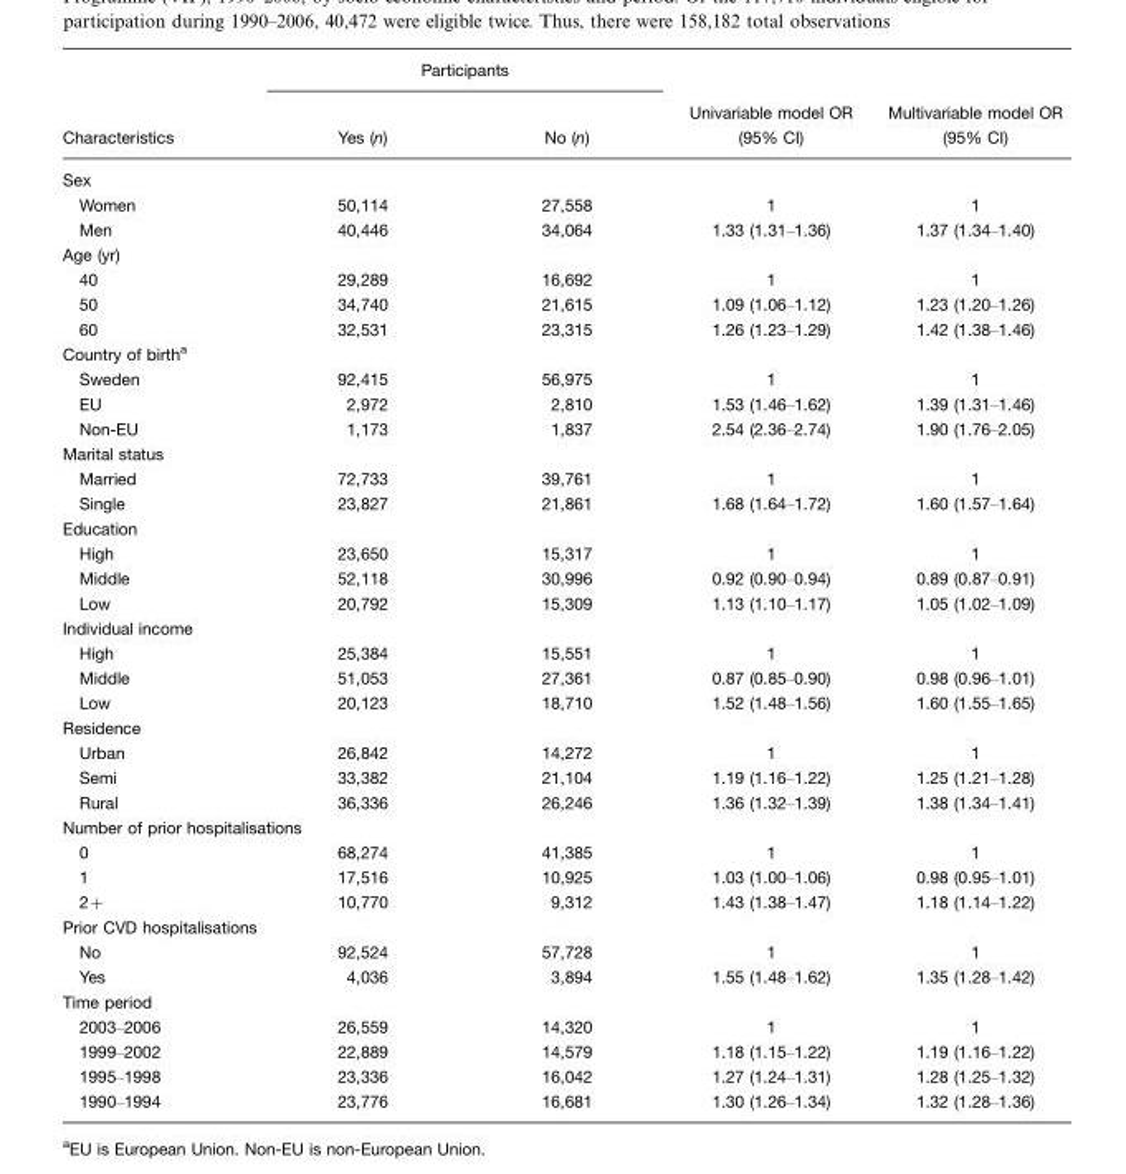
<table><thead><tr><td rowspan="2">Characteristics</td><td colspan="2">Participants</td><td rowspan="2">Univariable model OR (95% CI)</td><td rowspan="2">Multivariable model OR (95% CI)</td></tr><tr><td>Yes (n)</td><td>No (n)</td></tr></thead><tbody><tr><td colspan="5">Sex</td></tr><tr><td>Women</td><td>50,114</td><td>27,558</td><td>1</td><td>1</td></tr><tr><td>Men</td><td>40,446</td><td>34,064</td><td>1.33 (1.31–1.36)</td><td>1.37 (1.34–1.40)</td></tr><tr><td colspan="5">Age (yr)</td></tr><tr><td>40</td><td>29,289</td><td>16,692</td><td>1</td><td>1</td></tr><tr><td>50</td><td>34,740</td><td>21,615</td><td>1.09 (1.06–1.12)</td><td>1.23 (1.20–1.26)</td></tr><tr><td>60</td><td>32,531</td><td>23,315</td><td>1.26 (1.23–1.29)</td><td>1.42 (1.38–1.46)</td></tr><tr><td colspan="5">Country of birth<sup>a</sup></td></tr><tr><td>Sweden</td><td>92,415</td><td>56,975</td><td>1</td><td>1</td></tr><tr><td>EU</td><td>2,972</td><td>2,810</td><td>1.53 (1.46–1.62)</td><td>1.39 (1.31–1.46)</td></tr><tr><td>Non-EU</td><td>1,173</td><td>1,837</td><td>2.54 (2.36–2.74)</td><td>1.90 (1.76–2.05)</td></tr><tr><td colspan="5">Marital status</td></tr><tr><td>Married</td><td>72,733</td><td>39,761</td><td>1</td><td>1</td></tr><tr><td>Single</td><td>23,827</td><td>21,861</td><td>1.68 (1.64–1.72)</td><td>1.60 (1.57–1.64)</td></tr><tr><td colspan="5">Education</td></tr><tr><td>High</td><td>23,650</td><td>15,317</td><td>1</td><td>1</td></tr><tr><td>Middle</td><td>52,118</td><td>30,996</td><td>0.92 (0.90–0.94)</td><td>0.89 (0.87–0.91)</td></tr><tr><td>Low</td><td>20,792</td><td>15,309</td><td>1.13 (1.10–1.17)</td><td>1.05 (1.02–1.09)</td></tr><tr><td colspan="5">Individual income</td></tr><tr><td>High</td><td>25,384</td><td>15,551</td><td>1</td><td>1</td></tr><tr><td>Middle</td><td>51,053</td><td>27,361</td><td>0.87 (0.85–0.90)</td><td>0.98 (0.96–1.01)</td></tr><tr><td>Low</td><td>20,123</td><td>18,710</td><td>1.52 (1.48–1.56)</td><td>1.60 (1.55–1.65)</td></tr><tr><td colspan="5">Residence</td></tr><tr><td>Urban</td><td>26,842</td><td>14,272</td><td>1</td><td>1</td></tr><tr><td>Semi</td><td>33,382</td><td>21,104</td><td>1.19 (1.16–1.22)</td><td>1.25 (1.21–1.28)</td></tr><tr><td>Rural</td><td>36,336</td><td>26,246</td><td>1.36 (1.32–1.39)</td><td>1.38 (1.34–1.41)</td></tr><tr><td colspan="5">Number of prior hospitalisations</td></tr><tr><td>0</td><td>68,274</td><td>41,385</td><td>1</td><td>1</td></tr><tr><td>1</td><td>17,516</td><td>10,925</td><td>1.03 (1.00–1.06)</td><td>0.98 (0.95–1.01)</td></tr><tr><td>2+</td><td>10,770</td><td>9,312</td><td>1.43 (1.38–1.47)</td><td>1.18 (1.14–1.22)</td></tr><tr><td colspan="5">Prior CVD hospitalisations</td></tr><tr><td>No</td><td>92,524</td><td>57,728</td><td>1</td><td>1</td></tr><tr><td>Yes</td><td>4,036</td><td>3,894</td><td>1.55 (1.48–1.62)</td><td>1.35 (1.28–1.42)</td></tr><tr><td colspan="5">Time period</td></tr><tr><td>2003–2006</td><td>26,559</td><td>14,320</td><td>1</td><td>1</td></tr><tr><td>1999–2002</td><td>22,889</td><td>14,579</td><td>1.18 (1.15–1.22)</td><td>1.19 (1.16–1.22)</td></tr><tr><td>1995–1998</td><td>23,336</td><td>16,042</td><td>1.27 (1.24–1.31)</td><td>1.28 (1.25–1.32)</td></tr><tr><td>1990–1994</td><td>23,776</td><td>16,681</td><td>1.30 (1.26–1.34)</td><td>1.32 (1.28–1.36)</td></tr></tbody></table>